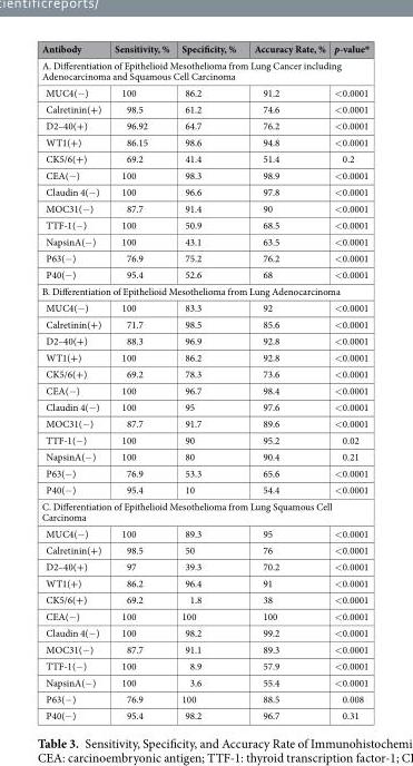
<table><thead><tr><td>Antibody</td><td>Sensitivity, %</td><td>Specificity, %</td><td>Accuracy Rate, %</td><td>p-value*</td></tr></thead><tbody><tr><td colspan="5">A. Differentiation of Epithelioid Mesothelioma from Lung Cancer including Adenocarcinoma and Squamous Cell Carcinoma</td></tr><tr><td>MUC4(−)</td><td>100</td><td>86.2</td><td>91.2</td><td>&lt;0.0001</td></tr><tr><td>Calretinin(+)</td><td>98.5</td><td>61.2</td><td>74.6</td><td>&lt;0.0001</td></tr><tr><td>D2–40(+)</td><td>96.92</td><td>64.7</td><td>76.2</td><td>&lt;0.0001</td></tr><tr><td>WT1(+)</td><td>86.15</td><td>98.6</td><td>94.8</td><td>&lt;0.0001</td></tr><tr><td>CK5/6(+)</td><td>69.2</td><td>41.4</td><td>51.4</td><td>0.2</td></tr><tr><td>CEA(−)</td><td>100</td><td>98.3</td><td>98.9</td><td>&lt;0.0001</td></tr><tr><td>Claudin 4(−)</td><td>100</td><td>96.6</td><td>97.8</td><td>&lt;0.0001</td></tr><tr><td>MOC31(−)</td><td>87.7</td><td>91.4</td><td>90</td><td>&lt;0.0001</td></tr><tr><td>TTF-1(−)</td><td>100</td><td>50.9</td><td>68.5</td><td>&lt;0.0001</td></tr><tr><td>NapsinA(−)</td><td>100</td><td>43.1</td><td>63.5</td><td>&lt;0.0001</td></tr><tr><td>P63(−)</td><td>76.9</td><td>75.2</td><td>76.2</td><td>&lt;0.0001</td></tr><tr><td>P40(−)</td><td>95.4</td><td>52.6</td><td>68</td><td>&lt;0.0001</td></tr><tr><td colspan="5">B. Differentiation of Epithelioid Mesothelioma from Lung Adenocarcinoma</td></tr><tr><td>MUC4(−)</td><td>100</td><td>83.3</td><td>92</td><td>&lt;0.0001</td></tr><tr><td>Calretinin(+)</td><td>71.7</td><td>98.5</td><td>85.6</td><td>&lt;0.0001</td></tr><tr><td>D2–40(+)</td><td>88.3</td><td>96.9</td><td>92.8</td><td>&lt;0.0001</td></tr><tr><td>WT1(+)</td><td>100</td><td>86.2</td><td>92.8</td><td>&lt;0.0001</td></tr><tr><td>CK5/6(+)</td><td>69.2</td><td>78.3</td><td>73.6</td><td>&lt;0.0001</td></tr><tr><td>CEA(−)</td><td>100</td><td>96.7</td><td>98.4</td><td>&lt;0.0001</td></tr><tr><td>Claudin 4(−)</td><td>100</td><td>95</td><td>97.6</td><td>&lt;0.0001</td></tr><tr><td>MOC31(−)</td><td>87.7</td><td>91.7</td><td>89.6</td><td>&lt;0.0001</td></tr><tr><td>TTF-1(−)</td><td>100</td><td>90</td><td>95.2</td><td>0.02</td></tr><tr><td>NapsinA(−)</td><td>100</td><td>80</td><td>90.4</td><td>0.21</td></tr><tr><td>P63(−)</td><td>76.9</td><td>53.3</td><td>65.6</td><td>&lt;0.0001</td></tr><tr><td>P40(−)</td><td>95.4</td><td>10</td><td>54.4</td><td>&lt;0.0001</td></tr><tr><td colspan="5">C. Differentiation of Epithelioid Mesothelioma from Lung Squamous Cell Carcinoma</td></tr><tr><td>MUC4(−)</td><td>100</td><td>89.3</td><td>95</td><td>&lt;0.0001</td></tr><tr><td>Calretinin(+)</td><td>98.5</td><td>50</td><td>76</td><td>&lt;0.0001</td></tr><tr><td>D2–40(+)</td><td>97</td><td>39.3</td><td>70.2</td><td>&lt;0.0001</td></tr><tr><td>WT1(+)</td><td>86.2</td><td>96.4</td><td>91</td><td>&lt;0.0001</td></tr><tr><td>CK5/6(+)</td><td>69.2</td><td>1.8</td><td>38</td><td>&lt;0.0001</td></tr><tr><td>CEA(−)</td><td>100</td><td>100</td><td>100</td><td>&lt;0.0001</td></tr><tr><td>Claudin 4(−)</td><td>100</td><td>98.2</td><td>99.2</td><td>&lt;0.0001</td></tr><tr><td>MOC31(−)</td><td>87.7</td><td>91.1</td><td>89.3</td><td>&lt;0.0001</td></tr><tr><td>TTF-1(−)</td><td>100</td><td>8.9</td><td>57.9</td><td>&lt;0.0001</td></tr><tr><td>NapsinA(−)</td><td>100</td><td>3.6</td><td>55.4</td><td>&lt;0.0001</td></tr><tr><td>P63(−)</td><td>76.9</td><td>100</td><td>88.5</td><td>0.008</td></tr><tr><td>P40(−)</td><td>95.4</td><td>98.2</td><td>96.7</td><td>0.31</td></tr></tbody></table>